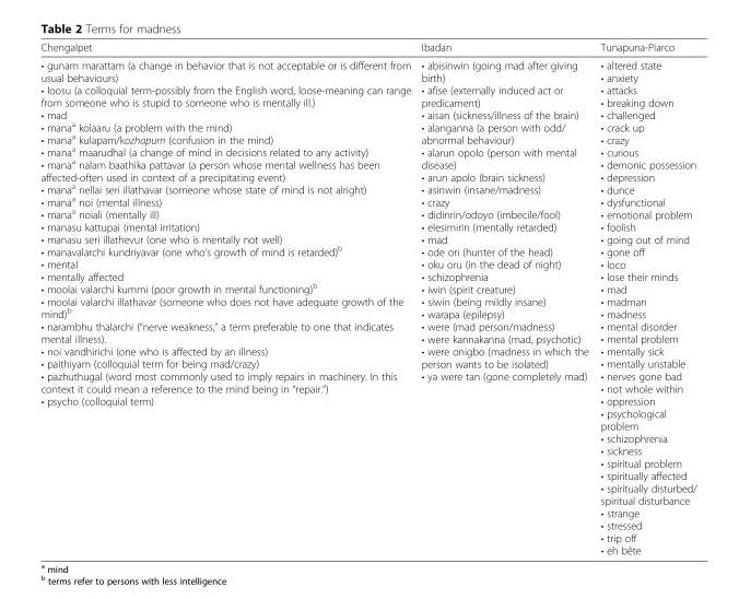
<table><thead><tr><td>Chengalpet</td><td>Ibadan</td><td>Tunapuna-Piarco</td></tr></thead><tbody><tr><td>• gunam marattam (a change in behavior that is not acceptable or is different from usual behaviours) • loosu (a colloquial term-possibly from the English word, loose-meaning can range from someone who is stupid to someone who is mentally ill.) • mad • mana<sup>a</sup> kolaaru (a problem with the mind) • mana<sup>a</sup> kulapam/kozhapum (confusion in the mind) • mana<sup>a</sup> maarudhal (a change of mind in decisions related to any activity) • mana<sup>a</sup> nalam baathika pattavar (a person whose mental wellness has been affected-often used in context of a precipitating event) • mana<sup>a</sup> nellai seri illathavar (someone whose state of mind is not alright) • mana<sup>a</sup> noi (mental illness) • mana<sup>a</sup> noiali (mentally ill) • manasu kattupai (mental irritation) • manasu seri illathevur (one who is mentally not well) • manavalarchi kundriyavar (one who’s growth of mind is retarded)<sup>b</sup> • mental • mentally affected • moolai valarchi kummi (poor growth in mental functioning)<sup>b</sup> • moolai valarchi illathavar (someone who does not have adequate growth of the mind)<sup>b</sup> • narambhu thalarchi (“nerve weakness,” a term preferable to one that indicates mental illness). • noi vandhirichi (one who is affected by an illness) • paithiyam (colloquial term for being mad/crazy) • pazhuthugal (word most commonly used to imply repairs in machinery. In this context it could mean a reference to the mind being in “repair.”) • psycho (colloquial term)</td><td>• abisinwin (going mad after giving birth) • afise (externally induced act or predicament) • aisan (sickness/illness of the brain) • alanganna (a person with odd/ abnormal behaviour) • alarun opolo (person with mental disease) • arun apolo (brain sickness) • asinwin (insane/madness) • crazy • didinrin/odoyo (imbecile/fool) • elesimirin (mentally retarded) • mad • ode ori (hunter of the head) • oku oru (in the dead of night) • schizophrenia • iwin (spirit creature) • siwin (being mildly insane) • warapa (epilepsy) • were (mad person/madness) • were kannakanna (mad, psychotic) • were onigbo (madness in which the person wants to be isolated) • ya were tan (gone completely mad)</td><td>• altered state • anxiety • attacks • breaking down • challenged • crack up • crazy • curious • demonic possession • depression • dunce • dysfunctional • emotional problem • foolish • going out of mind • gone off • loco • lose their minds • mad • madman • madness • mental disorder • mental problem • mentally sick • mentally unstable • nerves gone bad • not whole within • oppression • psychological problem • schizophrenia • sickness • spiritual problem • spiritually affected • spiritually disturbed/ spiritual disturbance • strange • stressed • trip off • eh bête</td></tr></tbody></table>